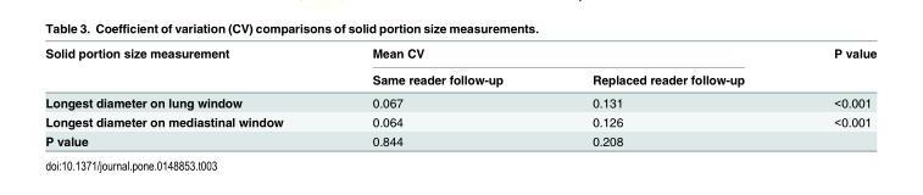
<table><thead><tr><td rowspan="2">Solid portion size measurement</td><td colspan="2">Mean CV</td><td rowspan="2">P value</td></tr><tr><td>Same reader follow-up</td><td>Replaced reader follow-up</td></tr></thead><tbody><tr><td>Longest diameter on lung window</td><td>0.067</td><td>0.131</td><td>&lt;0.001</td></tr><tr><td>Longest diameter on mediastinal window</td><td>0.064</td><td>0.126</td><td>&lt;0.001</td></tr><tr><td>P value</td><td>0.844</td><td>0.208</td><td></td></tr></tbody></table>